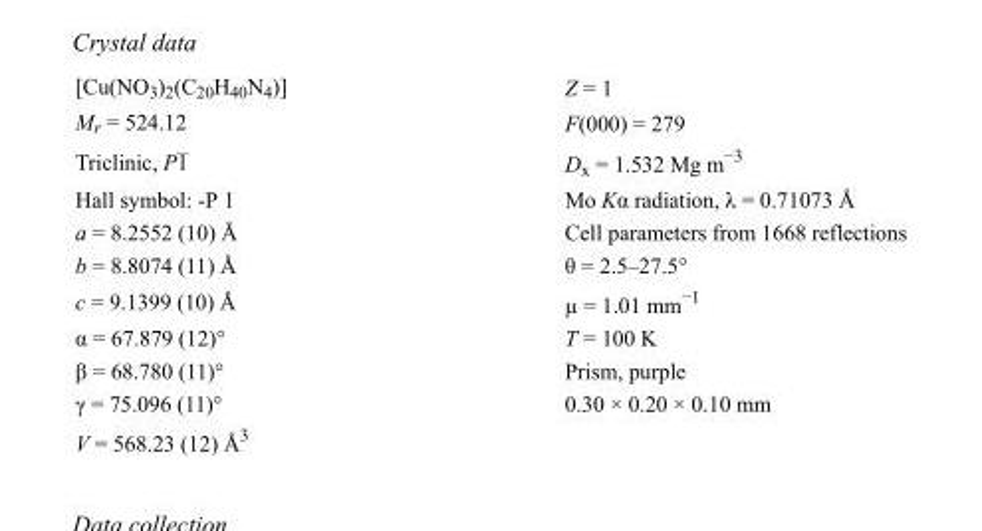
<table><tbody><tr><td>[Cu(NO<sub>3</sub>)<sub>2</sub>(C<sub>20</sub>H<sub>40</sub>N<sub>4</sub>)]</td><td>Z = 1</td></tr><tr><td>M<sub>r</sub> = 524.12</td><td>F(000) = 279</td></tr><tr><td>Triclinic, P1</td><td>D<sub>x</sub> = 1.532 Mg m<sup>−3</sup></td></tr><tr><td>Hall symbol: -P 1</td><td>Mo Kα radiation, λ = 0.71073 Å</td></tr><tr><td>a = 8.2552 (10) Å</td><td>Cell parameters from 1668 reflections</td></tr><tr><td>b = 8.8074 (11) Å</td><td>θ = 2.5–27.5°</td></tr><tr><td>c = 9.1399 (10) Å</td><td>µ = 1.01 mm<sup>−1</sup></td></tr><tr><td>α = 67.879 (12)°</td><td>T = 100 K</td></tr><tr><td>β = 68.780 (11)°</td><td>Prism, purple</td></tr><tr><td>γ = 75.096 (11)°</td><td>0.30 × 0.20 × 0.10 mm</td></tr><tr><td>V = 568.23 (12) Å<sup>3</sup></td><td></td></tr></tbody></table>